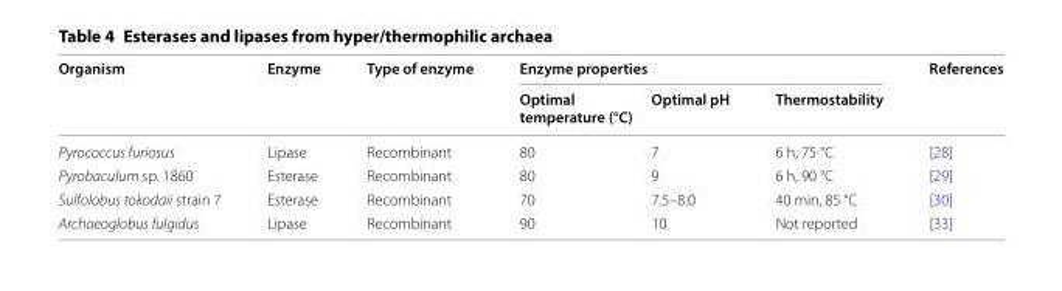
<table><thead><tr><td rowspan="2">Organism</td><td rowspan="2">Enzyme</td><td rowspan="2">Type of enzyme</td><td colspan="3">Enzyme properties</td><td rowspan="2">References</td></tr><tr><td>Optimal temperature (°C)</td><td>Optimal pH</td><td>Thermostability</td></tr></thead><tbody><tr><td>Pyrococcus furiosus</td><td>Lipase</td><td>Recombinant</td><td>80</td><td>7</td><td>6 h, 75 °C</td><td>[28]</td></tr><tr><td>Pyrobaculum sp. 1860</td><td>Esterase</td><td>Recombinant</td><td>80</td><td>9</td><td>6 h, 90 °C</td><td>[29]</td></tr><tr><td>Sulfolobus tokodaii strain 7</td><td>Esterase</td><td>Recombinant</td><td>70</td><td>7.5–8.0</td><td>40 min, 85 °C</td><td>[30]</td></tr><tr><td>Archaeoglobus fulgidus</td><td>Lipase</td><td>Recombinant</td><td>90</td><td>10</td><td>Not reported</td><td>[33]</td></tr></tbody></table>